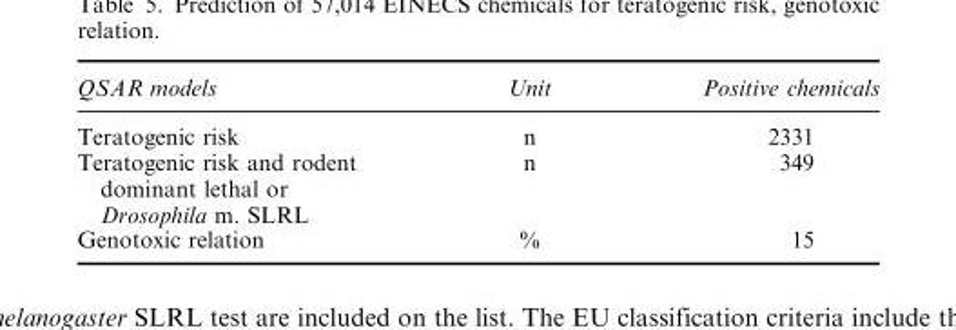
<table><thead><tr><td>QSAR models</td><td>Unit</td><td>Positive chemicals</td></tr></thead><tbody><tr><td>Teratogenic risk</td><td>n</td><td>2331</td></tr><tr><td>Teratogenic risk and rodent dominant lethal or Drosophila m. SLRL</td><td>n</td><td>349</td></tr><tr><td>Genotoxic relation</td><td>%</td><td>15</td></tr></tbody></table>